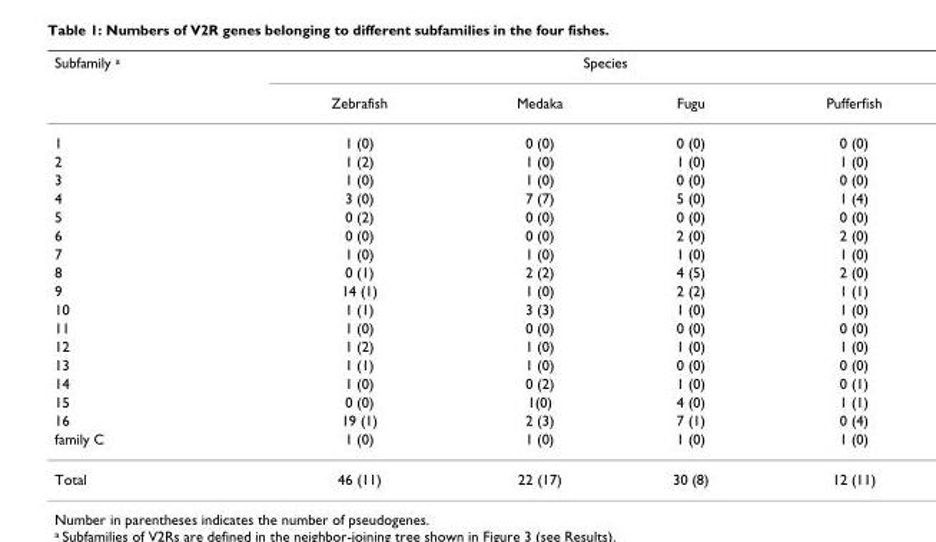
<table><thead><tr><td rowspan="2">Subfamily <sup>a</sup></td><td colspan="4">Species</td></tr><tr><td>Zebrafish</td><td>Medaka</td><td>Fugu</td><td>Pufferfish</td></tr></thead><tbody><tr><td>1</td><td>1 (0)</td><td>0 (0)</td><td>0 (0)</td><td>0 (0)</td></tr><tr><td>2</td><td>1 (2)</td><td>1 (0)</td><td>1 (0)</td><td>1 (0)</td></tr><tr><td>3</td><td>1 (0)</td><td>1 (0)</td><td>0 (0)</td><td>0 (0)</td></tr><tr><td>4</td><td>3 (0)</td><td>7 (7)</td><td>5 (0)</td><td>1 (4)</td></tr><tr><td>5</td><td>0 (2)</td><td>0 (0)</td><td>0 (0)</td><td>0 (0)</td></tr><tr><td>6</td><td>0 (0)</td><td>0 (0)</td><td>2 (0)</td><td>2 (0)</td></tr><tr><td>7</td><td>1 (0)</td><td>1 (0)</td><td>1 (0)</td><td>1 (0)</td></tr><tr><td>8</td><td>0 (1)</td><td>2 (2)</td><td>4 (5)</td><td>2 (0)</td></tr><tr><td>9</td><td>14 (1)</td><td>1 (0)</td><td>2 (2)</td><td>1 (1)</td></tr><tr><td>10</td><td>1 (1)</td><td>3 (3)</td><td>1 (0)</td><td>1 (0)</td></tr><tr><td>11</td><td>1 (0)</td><td>0 (0)</td><td>0 (0)</td><td>0 (0)</td></tr><tr><td>12</td><td>1 (2)</td><td>1 (0)</td><td>1 (0)</td><td>1 (0)</td></tr><tr><td>13</td><td>1 (1)</td><td>1 (0)</td><td>0 (0)</td><td>0 (0)</td></tr><tr><td>14</td><td>1 (0)</td><td>0 (2)</td><td>1 (0)</td><td>0 (1)</td></tr><tr><td>15</td><td>0 (0)</td><td>1(0)</td><td>4 (0)</td><td>1 (1)</td></tr><tr><td>16</td><td>19 (1)</td><td>2 (3)</td><td>7 (1)</td><td>0 (4)</td></tr><tr><td>family C</td><td>1 (0)</td><td>1 (0)</td><td>1 (0)</td><td>1 (0)</td></tr><tr><td>Total</td><td>46 (11)</td><td>22 (17)</td><td>30 (8)</td><td>12 (11)</td></tr></tbody></table>